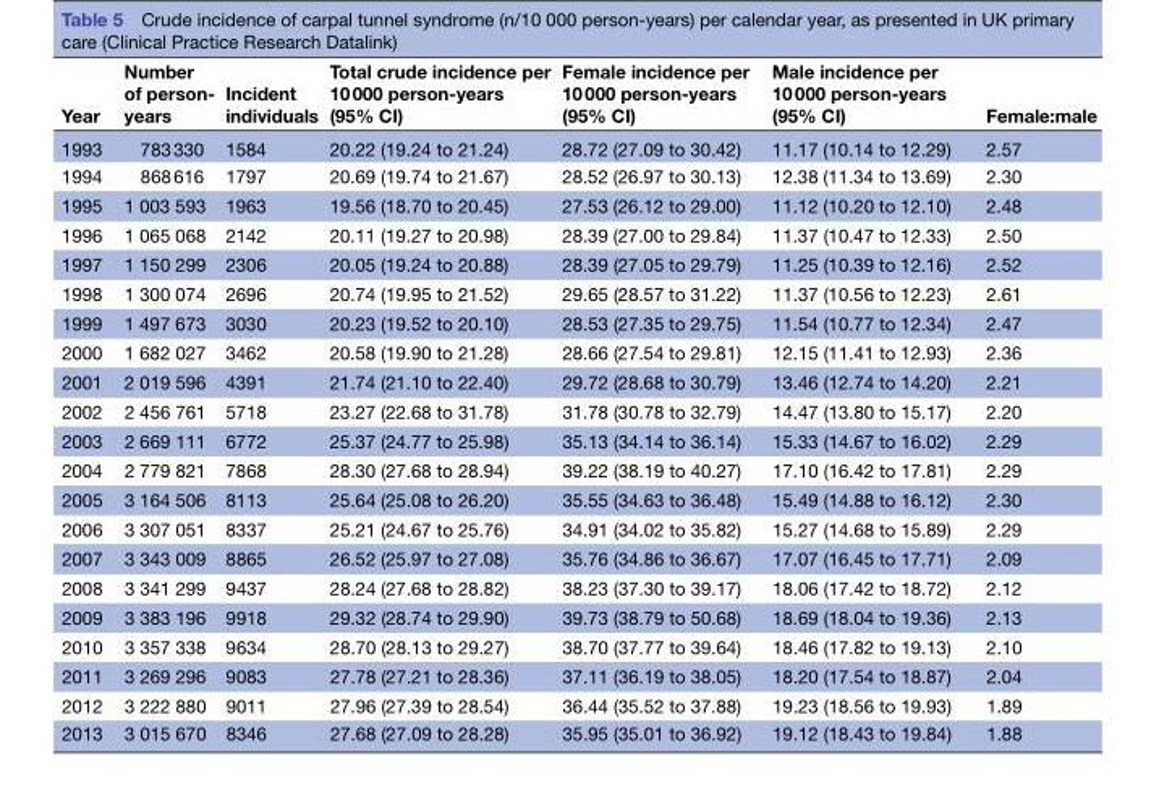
<table><thead><tr><td>Year</td><td>Number of person- years</td><td>Incident individuals</td><td>Total crude incidence per 10 000 person-years (95% CI)</td><td>Female incidence per 10 000 person-years (95% CI)</td><td>Male incidence per 10 000 person-years (95% CI)</td><td>Female:male</td></tr></thead><tbody><tr><td>1993</td><td>783 330</td><td>1584</td><td>20.22 (19.24 to 21.24)</td><td>28.72 (27.09 to 30.42)</td><td>11.17 (10.14 to 12.29)</td><td>2.57</td></tr><tr><td>1994</td><td>868 616</td><td>1797</td><td>20.69 (19.74 to 21.67)</td><td>28.52 (26.97 to 30.13)</td><td>12.38 (11.34 to 13.69)</td><td>2.30</td></tr><tr><td>1995</td><td>1 003 593</td><td>1963</td><td>19.56 (18.70 to 20.45)</td><td>27.53 (26.12 to 29.00)</td><td>11.12 (10.20 to 12.10)</td><td>2.48</td></tr><tr><td>1996</td><td>1 065 068</td><td>2142</td><td>20.11 (19.27 to 20.98)</td><td>28.39 (27.00 to 29.84)</td><td>11.37 (10.47 to 12.33)</td><td>2.50</td></tr><tr><td>1997</td><td>1 150 299</td><td>2306</td><td>20.05 (19.24 to 20.88)</td><td>28.39 (27.05 to 29.79)</td><td>11.25 (10.39 to 12.16)</td><td>2.52</td></tr><tr><td>1998</td><td>1 300 074</td><td>2696</td><td>20.74 (19.95 to 21.52)</td><td>29.65 (28.57 to 31.22)</td><td>11.37 (10.56 to 12.23)</td><td>2.61</td></tr><tr><td>1999</td><td>1 497 673</td><td>3030</td><td>20.23 (19.52 to 20.10)</td><td>28.53 (27.35 to 29.75)</td><td>11.54 (10.77 to 12.34)</td><td>2.47</td></tr><tr><td>2000</td><td>1 682 027</td><td>3462</td><td>20.58 (19.90 to 21.28)</td><td>28.66 (27.54 to 29.81)</td><td>12.15 (11.41 to 12.93)</td><td>2.36</td></tr><tr><td>2001</td><td>2 019 596</td><td>4391</td><td>21.74 (21.10 to 22.40)</td><td>29.72 (28.68 to 30.79)</td><td>13.46 (12.74 to 14.20)</td><td>2.21</td></tr><tr><td>2002</td><td>2 456 761</td><td>5718</td><td>23.27 (22.68 to 31.78)</td><td>31.78 (30.78 to 32.79)</td><td>14.47 (13.80 to 15.17)</td><td>2.20</td></tr><tr><td>2003</td><td>2 669 111</td><td>6772</td><td>25.37 (24.77 to 25.98)</td><td>35.13 (34.14 to 36.14)</td><td>15.33 (14.67 to 16.02)</td><td>2.29</td></tr><tr><td>2004</td><td>2 779 821</td><td>7868</td><td>28.30 (27.68 to 28.94)</td><td>39.22 (38.19 to 40.27)</td><td>17.10 (16.42 to 17.81)</td><td>2.29</td></tr><tr><td>2005</td><td>3 164 506</td><td>8113</td><td>25.64 (25.08 to 26.20)</td><td>35.55 (34.63 to 36.48)</td><td>15.49 (14.88 to 16.12)</td><td>2.30</td></tr><tr><td>2006</td><td>3 307 051</td><td>8337</td><td>25.21 (24.67 to 25.76)</td><td>34.91 (34.02 to 35.82)</td><td>15.27 (14.68 to 15.89)</td><td>2.29</td></tr><tr><td>2007</td><td>3 343 009</td><td>8865</td><td>26.52 (25.97 to 27.08)</td><td>35.76 (34.86 to 36.67)</td><td>17.07 (16.45 to 17.71)</td><td>2.09</td></tr><tr><td>2008</td><td>3 341 299</td><td>9437</td><td>28.24 (27.68 to 28.82)</td><td>38.23 (37.30 to 39.17)</td><td>18.06 (17.42 to 18.72)</td><td>2.12</td></tr><tr><td>2009</td><td>3 383 196</td><td>9918</td><td>29.32 (28.74 to 29.90)</td><td>39.73 (38.79 to 50.68)</td><td>18.69 (18.04 to 19.36)</td><td>2.13</td></tr><tr><td>2010</td><td>3 357 338</td><td>9634</td><td>28.70 (28.13 to 29.27)</td><td>38.70 (37.77 to 39.64)</td><td>18.46 (17.82 to 19.13)</td><td>2.10</td></tr><tr><td>2011</td><td>3 269 296</td><td>9083</td><td>27.78 (27.21 to 28.36)</td><td>37.11 (36.19 to 38.05)</td><td>18.20 (17.54 to 18.87)</td><td>2.04</td></tr><tr><td>2012</td><td>3 222 880</td><td>9011</td><td>27.96 (27.39 to 28.54)</td><td>36.44 (35.52 to 37.88)</td><td>19.23 (18.56 to 19.93)</td><td>1.89</td></tr><tr><td>2013</td><td>3 015 670</td><td>8346</td><td>27.68 (27.09 to 28.28)</td><td>35.95 (35.01 to 36.92)</td><td>19.12 (18.43 to 19.84)</td><td>1.88</td></tr></tbody></table>